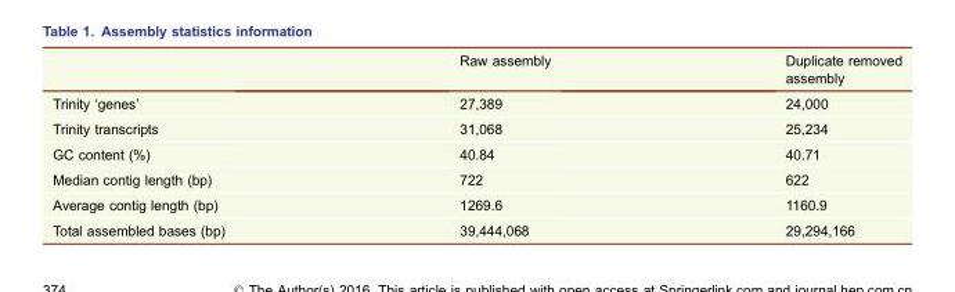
<table><thead><tr><td></td><td>Raw assembly</td><td>Duplicate removed assembly</td></tr></thead><tbody><tr><td>Trinity ‘genes’</td><td>27,389</td><td>24,000</td></tr><tr><td>Trinity transcripts</td><td>31,068</td><td>25,234</td></tr><tr><td>GC content (%)</td><td>40.84</td><td>40.71</td></tr><tr><td>Median contig length (bp)</td><td>722</td><td>622</td></tr><tr><td>Average contig length (bp)</td><td>1269.6</td><td>1160.9</td></tr><tr><td>Total assembled bases (bp)</td><td>39,444,068</td><td>29,294,166</td></tr></tbody></table>